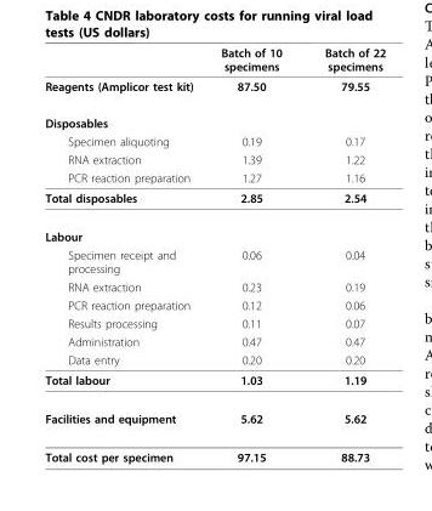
<table><thead><tr><td></td><td>Batch of 10 specimens</td><td>Batch of 22 specimens</td></tr></thead><tbody><tr><td>Reagents (Amplicor test kit)</td><td>87.50</td><td>79.55</td></tr><tr><td colspan="3">Disposables</td></tr><tr><td>Specimen aliquoting</td><td>0.19</td><td>0.17</td></tr><tr><td>RNA extraction</td><td>1.39</td><td>1.22</td></tr><tr><td>PCR reaction preparation</td><td>1.27</td><td>1.16</td></tr><tr><td>Total disposables</td><td>2.85</td><td>2.54</td></tr><tr><td colspan="3">Labour</td></tr><tr><td>Specimen receipt and processing</td><td>0.06</td><td>0.04</td></tr><tr><td>RNA extraction</td><td>0.23</td><td>0.19</td></tr><tr><td>PCR reaction preparation</td><td>0.12</td><td>0.06</td></tr><tr><td>Results processing</td><td>0.11</td><td>0.07</td></tr><tr><td>Administration</td><td>0.47</td><td>0.47</td></tr><tr><td>Data entry</td><td>0.20</td><td>0.20</td></tr><tr><td>Total labour</td><td>1.03</td><td>1.19</td></tr><tr><td>Facilities and equipment</td><td>5.62</td><td>5.62</td></tr><tr><td>Total cost per specimen</td><td>97.15</td><td>88.73</td></tr></tbody></table>